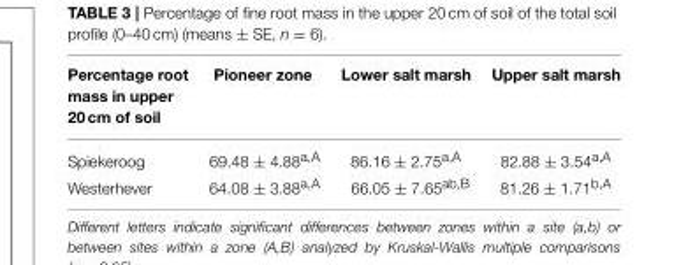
<table><thead><tr><td>Percentage root mass in upper 20 cm of soil</td><td>Pioneer zone</td><td>Lower salt marsh</td><td>Upper salt marsh</td></tr></thead><tbody><tr><td>Spiekeroog</td><td>69.48 ± 4.88<sup>a,A</sup></td><td>86.16 ± 2.75<sup>a,A</sup></td><td>82.88 ± 3.54<sup>a,A</sup></td></tr><tr><td>Westerhever</td><td>64.08 ± 3.88<sup>a,A</sup></td><td>66.05 ± 7.65<sup>ab,B</sup></td><td>81.26 ± 1.71<sup>b,A</sup></td></tr></tbody></table>